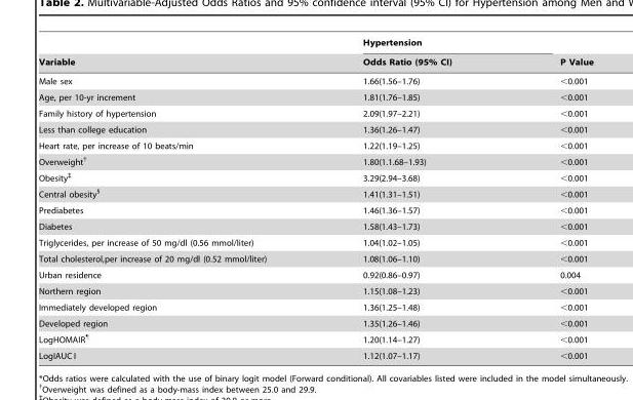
<table><thead><tr><td rowspan="2">Variable</td><td rowspan="2">Hypertension Odds Ratio (95% CI)</td><td rowspan="2">P Value</td></tr><tr></tr></thead><tbody><tr><td>Male sex</td><td>1.66(1.56–1.76)</td><td>&lt;0.001</td></tr><tr><td>Age, per 10-yr increment</td><td>1.81(1.76–1.85)</td><td>&lt;0.001</td></tr><tr><td>Family history of hypertension</td><td>2.09(1.97–2.21)</td><td>&lt;0.001</td></tr><tr><td>Less than college education</td><td>1.36(1.26–1.47)</td><td>&lt;0.001</td></tr><tr><td>Heart rate, per increase of 10 beats/min</td><td>1.22(1.19–1.25)</td><td>&lt;0.001</td></tr><tr><td>Overweight†</td><td>1.80(1.1.68–1.93)</td><td>&lt;0.001</td></tr><tr><td>Obesity‡</td><td>3.29(2.94–3.68)</td><td>&lt;0.001</td></tr><tr><td>Central obesity§</td><td>1.41(1.31–1.51)</td><td>&lt;0.001</td></tr><tr><td>Prediabetes</td><td>1.46(1.36–1.57)</td><td>&lt;0.001</td></tr><tr><td>Diabetes</td><td>1.58(1.43–1.73)</td><td>&lt;0.001</td></tr><tr><td>Triglycerides, per increase of 50 mg/dl (0.56 mmol/liter)</td><td>1.04(1.02–1.05)</td><td>&lt;0.001</td></tr><tr><td>Total cholesterol,per increase of 20 mg/dl (0.52 mmol/liter)</td><td>1.08(1.06–1.10)</td><td>&lt;0.001</td></tr><tr><td>Urban residence</td><td>0.92(0.86–0.97)</td><td>0.004</td></tr><tr><td>Northern region</td><td>1.15(1.08–1.23)</td><td>&lt;0.001</td></tr><tr><td>Immediately developed region</td><td>1.36(1.25–1.48)</td><td>&lt;0.001</td></tr><tr><td>Developed region</td><td>1.35(1.26–1.46)</td><td>&lt;0.001</td></tr><tr><td>LogHOMAIR¶</td><td>1.20(1.14–1.27)</td><td>&lt;0.001</td></tr><tr><td>LogIAUC ||</td><td>1.12(1.07–1.17)</td><td>&lt;0.001</td></tr></tbody></table>